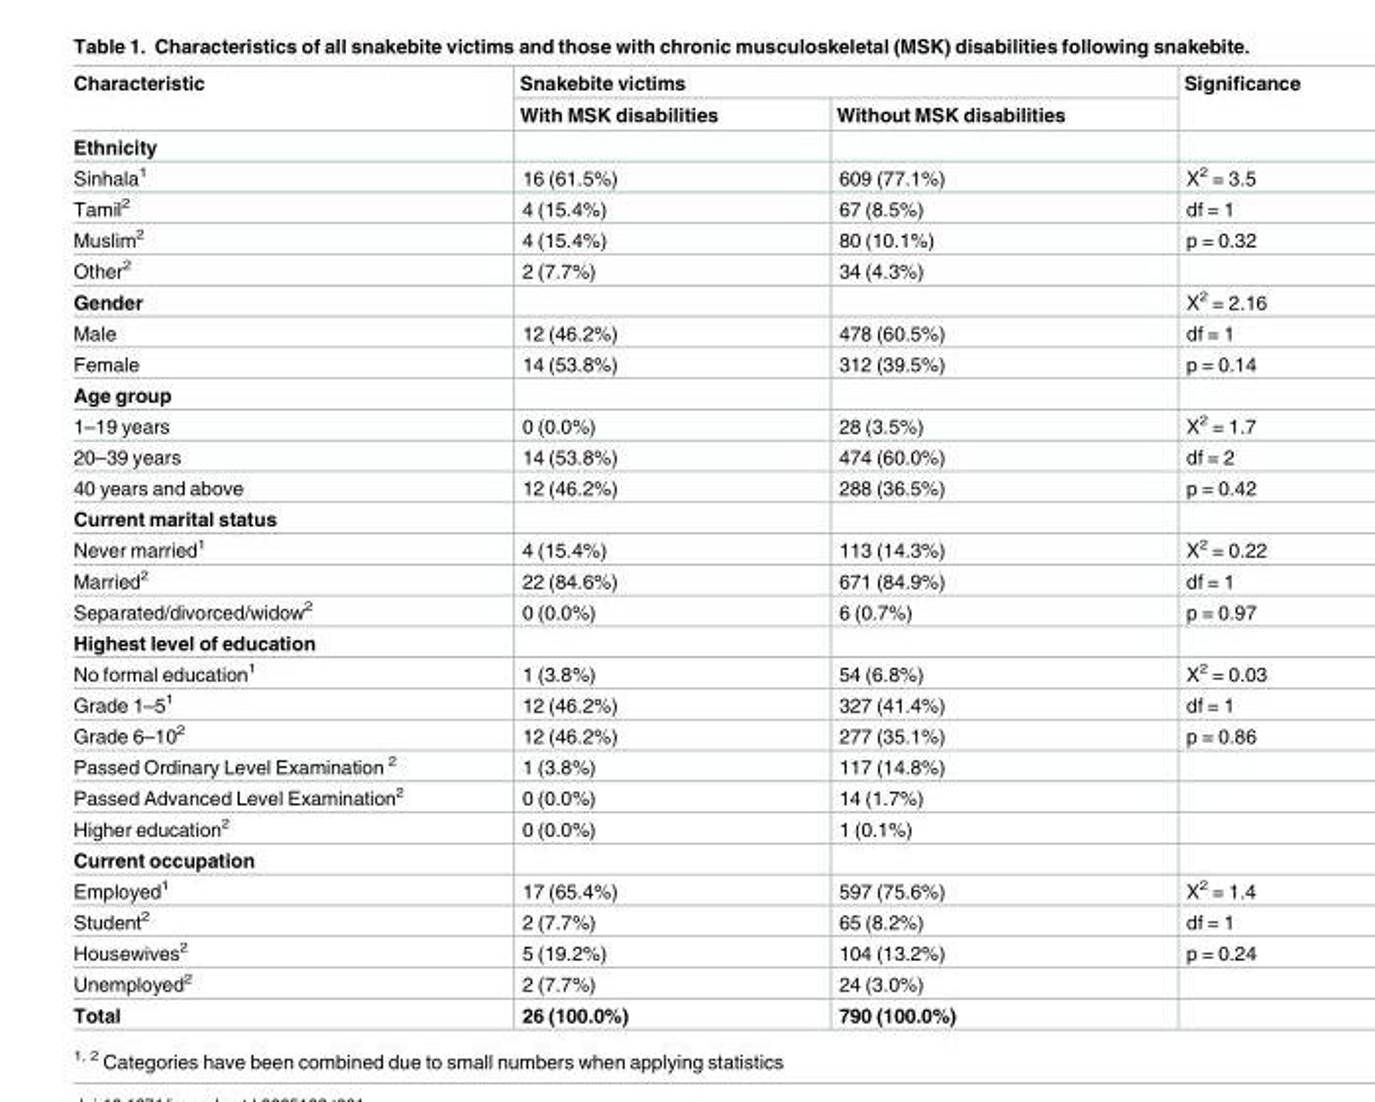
<table><thead><tr><td rowspan="2">Characteristic</td><td colspan="2">Snakebite victims</td><td rowspan="2">Significance</td></tr><tr><td>With MSK disabilities</td><td>Without MSK disabilities</td></tr></thead><tbody><tr><td colspan="4">Ethnicity</td></tr><tr><td>Sinhala<sup>1</sup></td><td>16 (61.5%)</td><td>609 (77.1%)</td><td>X<sup>2</sup> = 3.5</td></tr><tr><td>Tamil<sup>2</sup></td><td>4 (15.4%)</td><td>67 (8.5%)</td><td>df = 1</td></tr><tr><td>Muslim<sup>2</sup></td><td>4 (15.4%)</td><td>80 (10.1%)</td><td>p = 0.32</td></tr><tr><td>Other<sup>2</sup></td><td>2 (7.7%)</td><td>34 (4.3%)</td><td></td></tr><tr><td>Gender</td><td></td><td></td><td>X<sup>2</sup> = 2.16</td></tr><tr><td>Male</td><td>12 (46.2%)</td><td>478 (60.5%)</td><td>df = 1</td></tr><tr><td>Female</td><td>14 (53.8%)</td><td>312 (39.5%)</td><td>p = 0.14</td></tr><tr><td colspan="4">Age group</td></tr><tr><td>1–19 years</td><td>0 (0.0%)</td><td>28 (3.5%)</td><td>X<sup>2</sup> = 1.7</td></tr><tr><td>20–39 years</td><td>14 (53.8%)</td><td>474 (60.0%)</td><td>df = 2</td></tr><tr><td>40 years and above</td><td>12 (46.2%)</td><td>288 (36.5%)</td><td>p = 0.42</td></tr><tr><td colspan="4">Current marital status</td></tr><tr><td>Never married<sup>1</sup></td><td>4 (15.4%)</td><td>113 (14.3%)</td><td>X<sup>2</sup> = 0.22</td></tr><tr><td>Married<sup>2</sup></td><td>22 (84.6%)</td><td>671 (84.9%)</td><td>df = 1</td></tr><tr><td>Separated/divorced/widow<sup>2</sup></td><td>0 (0.0%)</td><td>6 (0.7%)</td><td>p = 0.97</td></tr><tr><td colspan="4">Highest level of education</td></tr><tr><td>No formal education<sup>1</sup></td><td>1 (3.8%)</td><td>54 (6.8%)</td><td>X<sup>2</sup> = 0.03</td></tr><tr><td>Grade 1–5<sup>1</sup></td><td>12 (46.2%)</td><td>327 (41.4%)</td><td>df = 1</td></tr><tr><td>Grade 6–10<sup>2</sup></td><td>12 (46.2%)</td><td>277 (35.1%)</td><td>p = 0.86</td></tr><tr><td>Passed Ordinary Level Examination <sup>2</sup></td><td>1 (3.8%)</td><td>117 (14.8%)</td><td></td></tr><tr><td>Passed Advanced Level Examination<sup>2</sup></td><td>0 (0.0%)</td><td>14 (1.7%)</td><td></td></tr><tr><td>Higher education<sup>2</sup></td><td>0 (0.0%)</td><td>1 (0.1%)</td><td></td></tr><tr><td colspan="4">Current occupation</td></tr><tr><td>Employed<sup>1</sup></td><td>17 (65.4%)</td><td>597 (75.6%)</td><td>X<sup>2</sup> = 1.4</td></tr><tr><td>Student<sup>2</sup></td><td>2 (7.7%)</td><td>65 (8.2%)</td><td>df = 1</td></tr><tr><td>Housewives<sup>2</sup></td><td>5 (19.2%)</td><td>104 (13.2%)</td><td>p = 0.24</td></tr><tr><td>Unemployed<sup>2</sup></td><td>2 (7.7%)</td><td>24 (3.0%)</td><td></td></tr><tr><td>Total</td><td>26 (100.0%)</td><td>790 (100.0%)</td><td></td></tr></tbody></table>